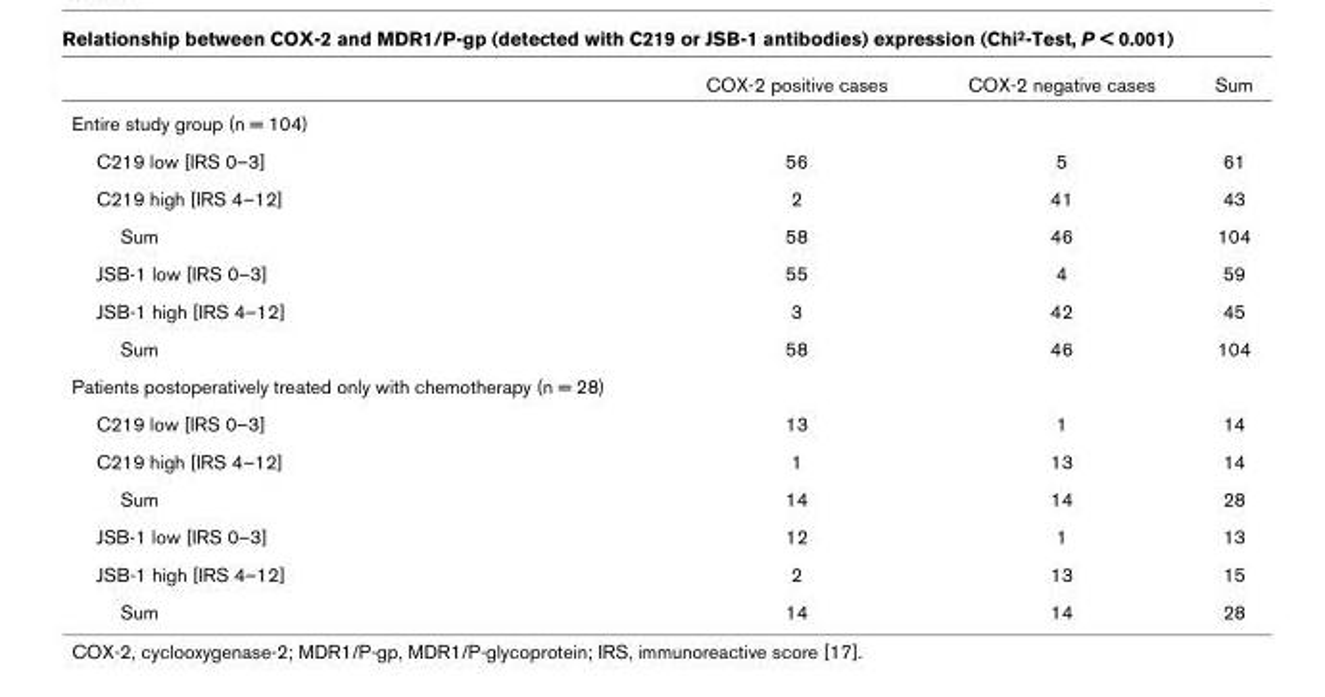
<table><thead><tr><td></td><td>COX-2 positive cases</td><td>COX-2 negative cases</td><td>Sum</td></tr></thead><tbody><tr><td colspan="4">Entire study group (n = 104)</td></tr><tr><td>C219 low [IRS 0–3]</td><td>56</td><td>5</td><td>61</td></tr><tr><td>C219 high [IRS 4–12]</td><td>2</td><td>41</td><td>43</td></tr><tr><td>Sum</td><td>58</td><td>46</td><td>104</td></tr><tr><td>JSB-1 low [IRS 0–3]</td><td>55</td><td>4</td><td>59</td></tr><tr><td>JSB-1 high [IRS 4–12]</td><td>3</td><td>42</td><td>45</td></tr><tr><td>Sum</td><td>58</td><td>46</td><td>104</td></tr><tr><td colspan="4">Patients postoperatively treated only with chemotherapy (n = 28)</td></tr><tr><td>C219 low [IRS 0–3]</td><td>13</td><td>1</td><td>14</td></tr><tr><td>C219 high [IRS 4–12]</td><td>1</td><td>13</td><td>14</td></tr><tr><td>Sum</td><td>14</td><td>14</td><td>28</td></tr><tr><td>JSB-1 low [IRS 0–3]</td><td>12</td><td>1</td><td>13</td></tr><tr><td>JSB-1 high [IRS 4–12]</td><td>2</td><td>13</td><td>15</td></tr><tr><td>Sum</td><td>14</td><td>14</td><td>28</td></tr></tbody></table>